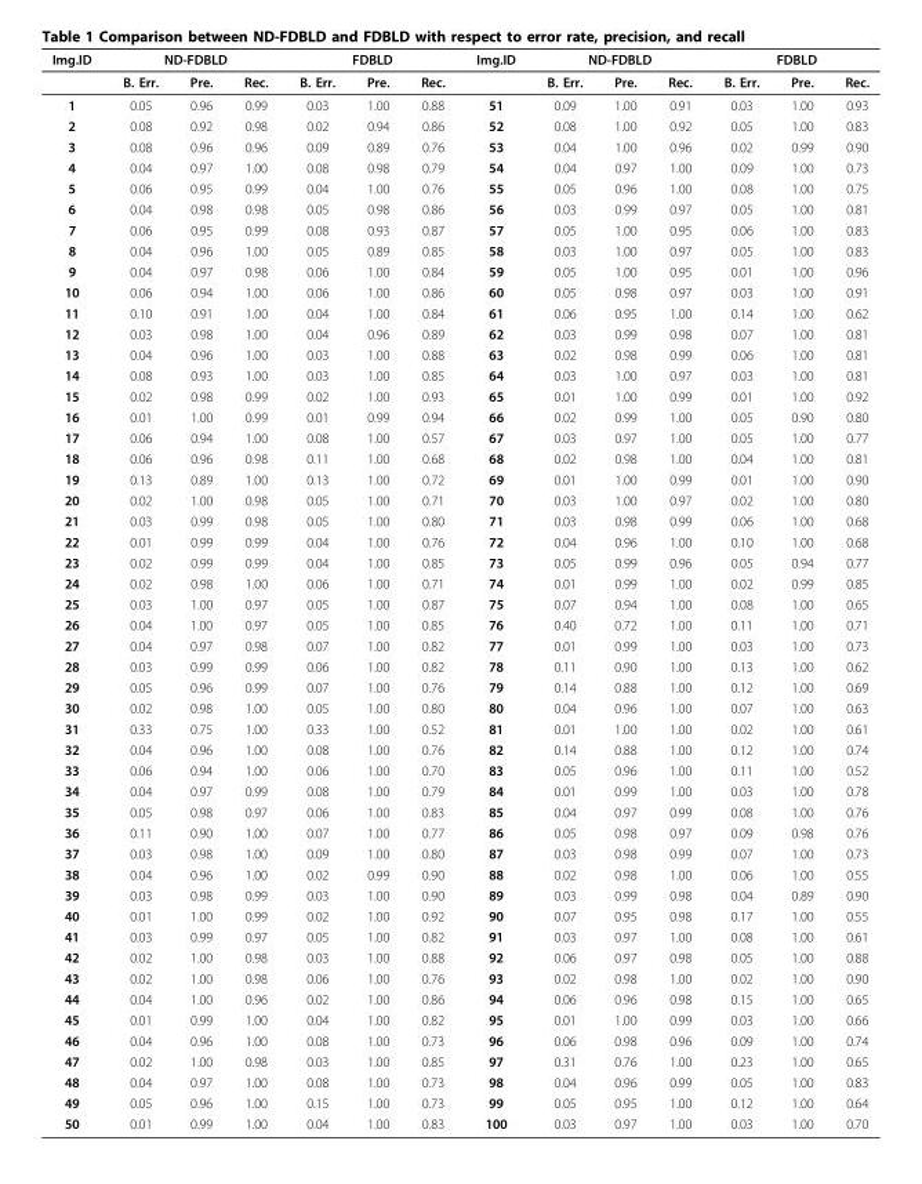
<table><thead><tr><td rowspan="2">Img.ID</td><td colspan="3">ND-FDBLD</td><td colspan="3">FDBLD</td><td rowspan="2">Img.ID</td><td colspan="3">ND-FDBLD</td><td colspan="3">FDBLD</td></tr><tr><td>B. Err.</td><td>Pre.</td><td>Rec.</td><td>B. Err.</td><td>Pre.</td><td>Rec.</td><td>B. Err.</td><td>Pre.</td><td>Rec.</td><td>B. Err.</td><td>Pre.</td><td>Rec.</td></tr></thead><tbody><tr><td>1</td><td>0.05</td><td>0.96</td><td>0.99</td><td>0.03</td><td>1.00</td><td>0.88</td><td>51</td><td>0.09</td><td>1.00</td><td>0.91</td><td>0.03</td><td>1.00</td><td>0.93</td></tr><tr><td>2</td><td>0.08</td><td>0.92</td><td>0.98</td><td>0.02</td><td>0.94</td><td>0.86</td><td>52</td><td>0.08</td><td>1.00</td><td>0.92</td><td>0.05</td><td>1.00</td><td>0.83</td></tr><tr><td>3</td><td>0.08</td><td>0.96</td><td>0.96</td><td>0.09</td><td>0.89</td><td>0.76</td><td>53</td><td>0.04</td><td>1.00</td><td>0.96</td><td>0.02</td><td>0.99</td><td>0.90</td></tr><tr><td>4</td><td>0.04</td><td>0.97</td><td>1.00</td><td>0.08</td><td>0.98</td><td>0.79</td><td>54</td><td>0.04</td><td>0.97</td><td>1.00</td><td>0.09</td><td>1.00</td><td>0.73</td></tr><tr><td>5</td><td>0.06</td><td>0.95</td><td>0.99</td><td>0.04</td><td>1.00</td><td>0.76</td><td>55</td><td>0.05</td><td>0.96</td><td>1.00</td><td>0.08</td><td>1.00</td><td>0.75</td></tr><tr><td>6</td><td>0.04</td><td>0.98</td><td>0.98</td><td>0.05</td><td>0.98</td><td>0.86</td><td>56</td><td>0.03</td><td>0.99</td><td>0.97</td><td>0.05</td><td>1.00</td><td>0.81</td></tr><tr><td>7</td><td>0.06</td><td>0.95</td><td>0.99</td><td>0.08</td><td>0.93</td><td>0.87</td><td>57</td><td>0.05</td><td>1.00</td><td>0.95</td><td>0.06</td><td>1.00</td><td>0.83</td></tr><tr><td>8</td><td>0.04</td><td>0.96</td><td>1.00</td><td>0.05</td><td>0.89</td><td>0.85</td><td>58</td><td>0.03</td><td>1.00</td><td>0.97</td><td>0.05</td><td>1.00</td><td>0.83</td></tr><tr><td>9</td><td>0.04</td><td>0.97</td><td>0.98</td><td>0.06</td><td>1.00</td><td>0.84</td><td>59</td><td>0.05</td><td>1.00</td><td>0.95</td><td>0.01</td><td>1.00</td><td>0.96</td></tr><tr><td>10</td><td>0.06</td><td>0.94</td><td>1.00</td><td>0.06</td><td>1.00</td><td>0.86</td><td>60</td><td>0.05</td><td>0.98</td><td>0.97</td><td>0.03</td><td>1.00</td><td>0.91</td></tr><tr><td>11</td><td>0.10</td><td>0.91</td><td>1.00</td><td>0.04</td><td>1.00</td><td>0.84</td><td>61</td><td>0.06</td><td>0.95</td><td>1.00</td><td>0.14</td><td>1.00</td><td>0.62</td></tr><tr><td>12</td><td>0.03</td><td>0.98</td><td>1.00</td><td>0.04</td><td>0.96</td><td>0.89</td><td>62</td><td>0.03</td><td>0.99</td><td>0.98</td><td>0.07</td><td>1.00</td><td>0.81</td></tr><tr><td>13</td><td>0.04</td><td>0.96</td><td>1.00</td><td>0.03</td><td>1.00</td><td>0.88</td><td>63</td><td>0.02</td><td>0.98</td><td>0.99</td><td>0.06</td><td>1.00</td><td>0.81</td></tr><tr><td>14</td><td>0.08</td><td>0.93</td><td>1.00</td><td>0.03</td><td>1.00</td><td>0.85</td><td>64</td><td>0.03</td><td>1.00</td><td>0.97</td><td>0.03</td><td>1.00</td><td>0.81</td></tr><tr><td>15</td><td>0.02</td><td>0.98</td><td>0.99</td><td>0.02</td><td>1.00</td><td>0.93</td><td>65</td><td>0.01</td><td>1.00</td><td>0.99</td><td>0.01</td><td>1.00</td><td>0.92</td></tr><tr><td>16</td><td>0.01</td><td>1.00</td><td>0.99</td><td>0.01</td><td>0.99</td><td>0.94</td><td>66</td><td>0.02</td><td>0.99</td><td>1.00</td><td>0.05</td><td>0.90</td><td>0.80</td></tr><tr><td>17</td><td>0.06</td><td>0.94</td><td>1.00</td><td>0.08</td><td>1.00</td><td>0.57</td><td>67</td><td>0.03</td><td>0.97</td><td>1.00</td><td>0.05</td><td>1.00</td><td>0.77</td></tr><tr><td>18</td><td>0.06</td><td>0.96</td><td>0.98</td><td>0.11</td><td>1.00</td><td>0.68</td><td>68</td><td>0.02</td><td>0.98</td><td>1.00</td><td>0.04</td><td>1.00</td><td>0.81</td></tr><tr><td>19</td><td>0.13</td><td>0.89</td><td>1.00</td><td>0.13</td><td>1.00</td><td>0.72</td><td>69</td><td>0.01</td><td>1.00</td><td>0.99</td><td>0.01</td><td>1.00</td><td>0.90</td></tr><tr><td>20</td><td>0.02</td><td>1.00</td><td>0.98</td><td>0.05</td><td>1.00</td><td>0.71</td><td>70</td><td>0.03</td><td>1.00</td><td>0.97</td><td>0.02</td><td>1.00</td><td>0.80</td></tr><tr><td>21</td><td>0.03</td><td>0.99</td><td>0.98</td><td>0.05</td><td>1.00</td><td>0.80</td><td>71</td><td>0.03</td><td>0.98</td><td>0.99</td><td>0.06</td><td>1.00</td><td>0.68</td></tr><tr><td>22</td><td>0.01</td><td>0.99</td><td>0.99</td><td>0.04</td><td>1.00</td><td>0.76</td><td>72</td><td>0.04</td><td>0.96</td><td>1.00</td><td>0.10</td><td>1.00</td><td>0.68</td></tr><tr><td>23</td><td>0.02</td><td>0.99</td><td>0.99</td><td>0.04</td><td>1.00</td><td>0.85</td><td>73</td><td>0.05</td><td>0.99</td><td>0.96</td><td>0.05</td><td>0.94</td><td>0.77</td></tr><tr><td>24</td><td>0.02</td><td>0.98</td><td>1.00</td><td>0.06</td><td>1.00</td><td>0.71</td><td>74</td><td>0.01</td><td>0.99</td><td>1.00</td><td>0.02</td><td>0.99</td><td>0.85</td></tr><tr><td>25</td><td>0.03</td><td>1.00</td><td>0.97</td><td>0.05</td><td>1.00</td><td>0.87</td><td>75</td><td>0.07</td><td>0.94</td><td>1.00</td><td>0.08</td><td>1.00</td><td>0.65</td></tr><tr><td>26</td><td>0.04</td><td>1.00</td><td>0.97</td><td>0.05</td><td>1.00</td><td>0.85</td><td>76</td><td>0.40</td><td>0.72</td><td>1.00</td><td>0.11</td><td>1.00</td><td>0.71</td></tr><tr><td>27</td><td>0.04</td><td>0.97</td><td>0.98</td><td>0.07</td><td>1.00</td><td>0.82</td><td>77</td><td>0.01</td><td>0.99</td><td>1.00</td><td>0.03</td><td>1.00</td><td>0.73</td></tr><tr><td>28</td><td>0.03</td><td>0.99</td><td>0.99</td><td>0.06</td><td>1.00</td><td>0.82</td><td>78</td><td>0.11</td><td>0.90</td><td>1.00</td><td>0.13</td><td>1.00</td><td>0.62</td></tr><tr><td>29</td><td>0.05</td><td>0.96</td><td>0.99</td><td>0.07</td><td>1.00</td><td>0.76</td><td>79</td><td>0.14</td><td>0.88</td><td>1.00</td><td>0.12</td><td>1.00</td><td>0.69</td></tr><tr><td>30</td><td>0.02</td><td>0.98</td><td>1.00</td><td>0.05</td><td>1.00</td><td>0.80</td><td>80</td><td>0.04</td><td>0.96</td><td>1.00</td><td>0.07</td><td>1.00</td><td>0.63</td></tr><tr><td>31</td><td>0.33</td><td>0.75</td><td>1.00</td><td>0.33</td><td>1.00</td><td>0.52</td><td>81</td><td>0.01</td><td>1.00</td><td>1.00</td><td>0.02</td><td>1.00</td><td>0.61</td></tr><tr><td>32</td><td>0.04</td><td>0.96</td><td>1.00</td><td>0.08</td><td>1.00</td><td>0.76</td><td>82</td><td>0.14</td><td>0.88</td><td>1.00</td><td>0.12</td><td>1.00</td><td>0.74</td></tr><tr><td>33</td><td>0.06</td><td>0.94</td><td>1.00</td><td>0.06</td><td>1.00</td><td>0.70</td><td>83</td><td>0.05</td><td>0.96</td><td>1.00</td><td>0.11</td><td>1.00</td><td>0.52</td></tr><tr><td>34</td><td>0.04</td><td>0.97</td><td>0.99</td><td>0.08</td><td>1.00</td><td>0.79</td><td>84</td><td>0.01</td><td>0.99</td><td>1.00</td><td>0.03</td><td>1.00</td><td>0.78</td></tr><tr><td>35</td><td>0.05</td><td>0.98</td><td>0.97</td><td>0.06</td><td>1.00</td><td>0.83</td><td>85</td><td>0.04</td><td>0.97</td><td>0.99</td><td>0.08</td><td>1.00</td><td>0.76</td></tr><tr><td>36</td><td>0.11</td><td>0.90</td><td>1.00</td><td>0.07</td><td>1.00</td><td>0.77</td><td>86</td><td>0.05</td><td>0.98</td><td>0.97</td><td>0.09</td><td>0.98</td><td>0.76</td></tr><tr><td>37</td><td>0.03</td><td>0.98</td><td>1.00</td><td>0.09</td><td>1.00</td><td>0.80</td><td>87</td><td>0.03</td><td>0.98</td><td>0.99</td><td>0.07</td><td>1.00</td><td>0.73</td></tr><tr><td>38</td><td>0.04</td><td>0.96</td><td>1.00</td><td>0.02</td><td>0.99</td><td>0.90</td><td>88</td><td>0.02</td><td>0.98</td><td>1.00</td><td>0.06</td><td>1.00</td><td>0.55</td></tr><tr><td>39</td><td>0.03</td><td>0.98</td><td>0.99</td><td>0.03</td><td>1.00</td><td>0.90</td><td>89</td><td>0.03</td><td>0.99</td><td>0.98</td><td>0.04</td><td>0.89</td><td>0.90</td></tr><tr><td>40</td><td>0.01</td><td>1.00</td><td>0.99</td><td>0.02</td><td>1.00</td><td>0.92</td><td>90</td><td>0.07</td><td>0.95</td><td>0.98</td><td>0.17</td><td>1.00</td><td>0.55</td></tr><tr><td>41</td><td>0.03</td><td>0.99</td><td>0.97</td><td>0.05</td><td>1.00</td><td>0.82</td><td>91</td><td>0.03</td><td>0.97</td><td>1.00</td><td>0.08</td><td>1.00</td><td>0.61</td></tr><tr><td>42</td><td>0.02</td><td>1.00</td><td>0.98</td><td>0.03</td><td>1.00</td><td>0.88</td><td>92</td><td>0.06</td><td>0.97</td><td>0.98</td><td>0.05</td><td>1.00</td><td>0.88</td></tr><tr><td>43</td><td>0.02</td><td>1.00</td><td>0.98</td><td>0.06</td><td>1.00</td><td>0.76</td><td>93</td><td>0.02</td><td>0.98</td><td>1.00</td><td>0.02</td><td>1.00</td><td>0.90</td></tr><tr><td>44</td><td>0.04</td><td>1.00</td><td>0.96</td><td>0.02</td><td>1.00</td><td>0.86</td><td>94</td><td>0.06</td><td>0.96</td><td>0.98</td><td>0.15</td><td>1.00</td><td>0.65</td></tr><tr><td>45</td><td>0.01</td><td>0.99</td><td>1.00</td><td>0.04</td><td>1.00</td><td>0.82</td><td>95</td><td>0.01</td><td>1.00</td><td>0.99</td><td>0.03</td><td>1.00</td><td>0.66</td></tr><tr><td>46</td><td>0.04</td><td>0.96</td><td>1.00</td><td>0.08</td><td>1.00</td><td>0.73</td><td>96</td><td>0.06</td><td>0.98</td><td>0.96</td><td>0.09</td><td>1.00</td><td>0.74</td></tr><tr><td>47</td><td>0.02</td><td>1.00</td><td>0.98</td><td>0.03</td><td>1.00</td><td>0.85</td><td>97</td><td>0.31</td><td>0.76</td><td>1.00</td><td>0.23</td><td>1.00</td><td>0.65</td></tr><tr><td>48</td><td>0.04</td><td>0.97</td><td>1.00</td><td>0.08</td><td>1.00</td><td>0.73</td><td>98</td><td>0.04</td><td>0.96</td><td>0.99</td><td>0.05</td><td>1.00</td><td>0.83</td></tr><tr><td>49</td><td>0.05</td><td>0.96</td><td>1.00</td><td>0.15</td><td>1.00</td><td>0.73</td><td>99</td><td>0.05</td><td>0.95</td><td>1.00</td><td>0.12</td><td>1.00</td><td>0.64</td></tr><tr><td>50</td><td>0.01</td><td>0.99</td><td>1.00</td><td>0.04</td><td>1.00</td><td>0.83</td><td>100</td><td>0.03</td><td>0.97</td><td>1.00</td><td>0.03</td><td>1.00</td><td>0.70</td></tr></tbody></table>